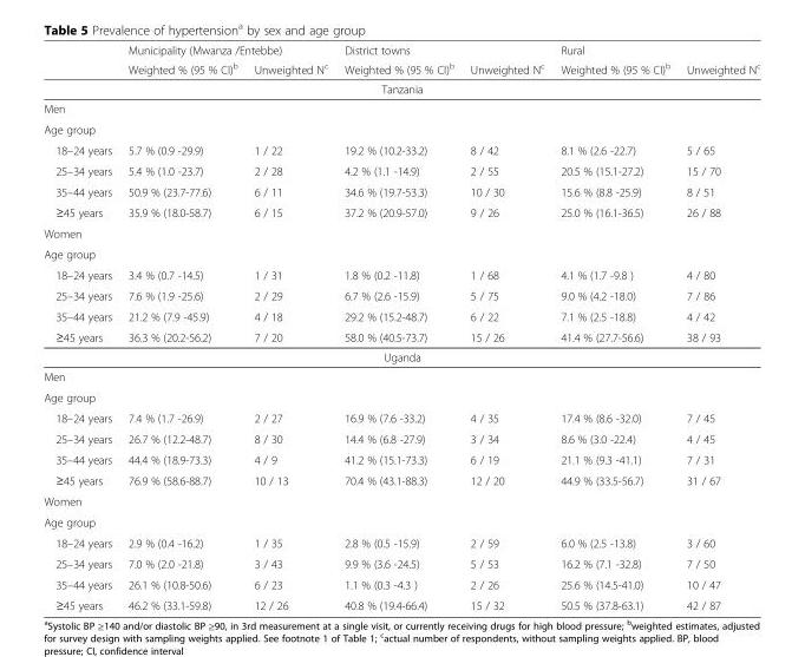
<table><thead><tr><td rowspan="2"></td><td colspan="2">Municipality (Mwanza /Entebbe)</td><td colspan="2">District towns</td><td colspan="2">Rural</td></tr><tr><td>Weighted % (95 % CI)<sup>b</sup></td><td>Unweighted N<sup>c</sup></td><td>Weighted % (95 % CI)<sup>b</sup></td><td>Unweighted N<sup>c</sup></td><td>Weighted % (95 % CI)<sup>b</sup></td><td>Unweighted N<sup>c</sup></td></tr></thead><tbody><tr><td colspan="7">Tanzania</td></tr><tr><td colspan="7">Men</td></tr><tr><td colspan="7">Age group</td></tr><tr><td>18–24 years</td><td>5.7 % (0.9 -29.9)</td><td>1 / 22</td><td>19.2 % (10.2-33.2)</td><td>8 / 42</td><td>8.1 % (2.6 -22.7)</td><td>5 / 65</td></tr><tr><td>25–34 years</td><td>5.4 % (1.0 -23.7)</td><td>2 / 28</td><td>4.2 % (1.1 -14.9)</td><td>2 / 55</td><td>20.5 % (15.1-27.2)</td><td>15 / 70</td></tr><tr><td>35–44 years</td><td>50.9 % (23.7-77.6)</td><td>6 / 11</td><td>34.6 % (19.7-53.3)</td><td>10 / 30</td><td>15.6 % (8.8 -25.9)</td><td>8 / 51</td></tr><tr><td>≥45 years</td><td>35.9 % (18.0-58.7)</td><td>6 / 15</td><td>37.2 % (20.9-57.0)</td><td>9 / 26</td><td>25.0 % (16.1-36.5)</td><td>26 / 88</td></tr><tr><td colspan="7">Women</td></tr><tr><td colspan="7">Age group</td></tr><tr><td>18–24 years</td><td>3.4 % (0.7 -14.5)</td><td>1 / 31</td><td>1.8 % (0.2 -11.8)</td><td>1 / 68</td><td>4.1 % (1.7 -9.8 )</td><td>4 / 80</td></tr><tr><td>25–34 years</td><td>7.6 % (1.9 -25.6)</td><td>2 / 29</td><td>6.7 % (2.6 -15.9)</td><td>5 / 75</td><td>9.0 % (4.2 -18.0)</td><td>7 / 86</td></tr><tr><td>35–44 years</td><td>21.2 % (7.9 -45.9)</td><td>4 / 18</td><td>29.2 % (15.2-48.7)</td><td>6 / 22</td><td>7.1 % (2.5 -18.8)</td><td>4 / 42</td></tr><tr><td>≥45 years</td><td>36.3 % (20.2-56.2)</td><td>7 / 20</td><td>58.0 % (40.5-73.7)</td><td>15 / 26</td><td>41.4 % (27.7-56.6)</td><td>38 / 93</td></tr><tr><td colspan="7">Uganda</td></tr><tr><td colspan="7">Men</td></tr><tr><td colspan="7">Age group</td></tr><tr><td>18–24 years</td><td>7.4 % (1.7 -26.9)</td><td>2 / 27</td><td>16.9 % (7.6 -33.2)</td><td>4 / 35</td><td>17.4 % (8.6 -32.0)</td><td>7 / 45</td></tr><tr><td>25–34 years</td><td>26.7 % (12.2-48.7)</td><td>8 / 30</td><td>14.4 % (6.8 -27.9)</td><td>3 / 34</td><td>8.6 % (3.0 -22.4)</td><td>4 / 45</td></tr><tr><td>35–44 years</td><td>44.4 % (18.9-73.3)</td><td>4 / 9</td><td>41.2 % (15.1-73.3)</td><td>6 / 19</td><td>21.1 % (9.3 -41.1)</td><td>7 / 31</td></tr><tr><td>≥45 years</td><td>76.9 % (58.6-88.7)</td><td>10 / 13</td><td>70.4 % (43.1-88.3)</td><td>12 / 20</td><td>44.9 % (33.5-56.7)</td><td>31 / 67</td></tr><tr><td colspan="7">Women</td></tr><tr><td colspan="7">Age group</td></tr><tr><td>18–24 years</td><td>2.9 % (0.4 -16.2)</td><td>1 / 35</td><td>2.8 % (0.5 -15.9)</td><td>2 / 59</td><td>6.0 % (2.5 -13.8)</td><td>3 / 60</td></tr><tr><td>25–34 years</td><td>7.0 % (2.0 -21.8)</td><td>3 / 43</td><td>9.9 % (3.6 -24.5)</td><td>5 / 53</td><td>16.2 % (7.1 -32.8)</td><td>7 / 50</td></tr><tr><td>35–44 years</td><td>26.1 % (10.8-50.6)</td><td>6 / 23</td><td>1.1 % (0.3 -4.3 )</td><td>2 / 26</td><td>25.6 % (14.5-41.0)</td><td>10 / 47</td></tr><tr><td>≥45 years</td><td>46.2 % (33.1-59.8)</td><td>12 / 26</td><td>40.8 % (19.4-66.4)</td><td>15 / 32</td><td>50.5 % (37.8-63.1)</td><td>42 / 87</td></tr></tbody></table>